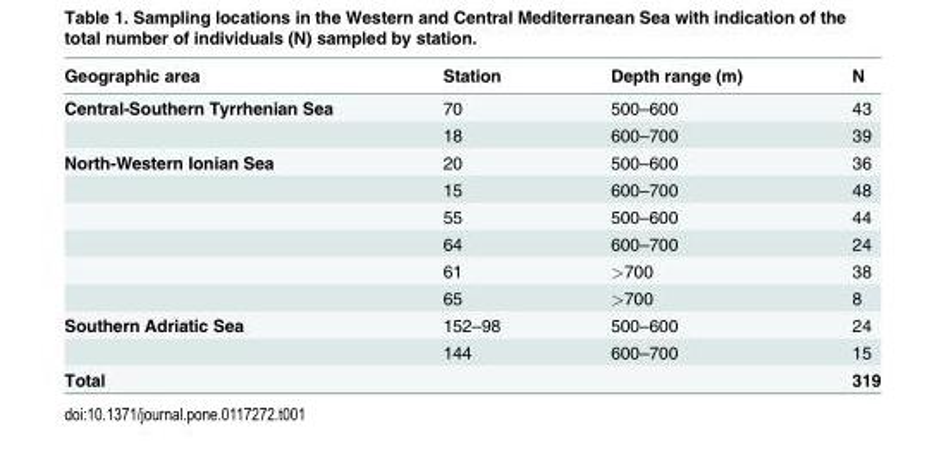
<table><thead><tr><td>Geographic area</td><td>Station</td><td>Depth range (m)</td><td>N</td></tr></thead><tbody><tr><td rowspan="2">Central-Southern Tyrrhenian Sea</td><td>70</td><td>500–600</td><td>43</td></tr><tr><td>18</td><td>600–700</td><td>39</td></tr><tr><td rowspan="6">North-Western Ionian Sea</td><td>20</td><td>500–600</td><td>36</td></tr><tr><td>15</td><td>600–700</td><td>48</td></tr><tr><td>55</td><td>500–600</td><td>44</td></tr><tr><td>64</td><td>600–700</td><td>24</td></tr><tr><td>61</td><td>&gt;700</td><td>38</td></tr><tr><td>65</td><td>&gt;700</td><td>8</td></tr><tr><td rowspan="2">Southern Adriatic Sea</td><td>152–98</td><td>500–600</td><td>24</td></tr><tr><td>144</td><td>600–700</td><td>15</td></tr><tr><td>Total</td><td></td><td></td><td>319</td></tr></tbody></table>